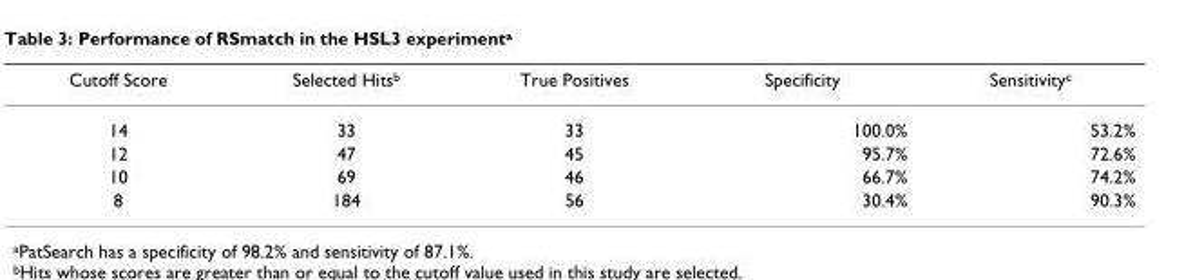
<table><thead><tr><td>Cutoff Score</td><td>Selected Hitsb</td><td>True Positives</td><td>Specificity</td><td>Sensitivityc</td></tr></thead><tbody><tr><td>14</td><td>33</td><td>33</td><td>100.0%</td><td>53.2%</td></tr><tr><td>12</td><td>47</td><td>45</td><td>95.7%</td><td>72.6%</td></tr><tr><td>10</td><td>69</td><td>46</td><td>66.7%</td><td>74.2%</td></tr><tr><td>8</td><td>184</td><td>56</td><td>30.4%</td><td>90.3%</td></tr></tbody></table>